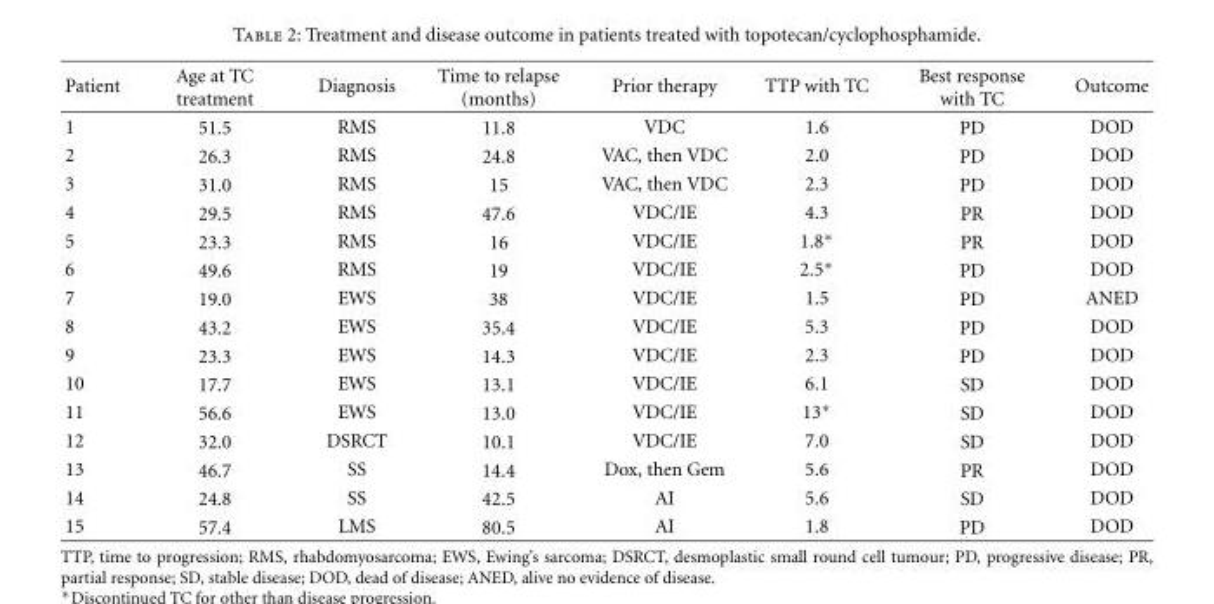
<table><thead><tr><td>Patient</td><td>Age at TC treatment</td><td>Diagnosis</td><td>Time to relapse (months)</td><td>Prior therapy</td><td>TTP with TC</td><td>Best response with TC</td><td>Outcome</td></tr></thead><tbody><tr><td>1</td><td>51.5</td><td>RMS</td><td>11.8</td><td>VDC</td><td>1.6</td><td>PD</td><td>DOD</td></tr><tr><td>2</td><td>26.3</td><td>RMS</td><td>24.8</td><td>VAC, then VDC</td><td>2.0</td><td>PD</td><td>DOD</td></tr><tr><td>3</td><td>31.0</td><td>RMS</td><td>15</td><td>VAC, then VDC</td><td>2.3</td><td>PD</td><td>DOD</td></tr><tr><td>4</td><td>29.5</td><td>RMS</td><td>47.6</td><td>VDC/IE</td><td>4.3</td><td>PR</td><td>DOD</td></tr><tr><td>5</td><td>23.3</td><td>RMS</td><td>16</td><td>VDC/IE</td><td>1.8∗</td><td>PR</td><td>DOD</td></tr><tr><td>6</td><td>49.6</td><td>RMS</td><td>19</td><td>VDC/IE</td><td>2.5∗</td><td>PD</td><td>DOD</td></tr><tr><td>7</td><td>19.0</td><td>EWS</td><td>38</td><td>VDC/IE</td><td>1.5</td><td>PD</td><td>ANED</td></tr><tr><td>8</td><td>43.2</td><td>EWS</td><td>35.4</td><td>VDC/IE</td><td>5.3</td><td>PD</td><td>DOD</td></tr><tr><td>9</td><td>23.3</td><td>EWS</td><td>14.3</td><td>VDC/IE</td><td>2.3</td><td>PD</td><td>DOD</td></tr><tr><td>10</td><td>17.7</td><td>EWS</td><td>13.1</td><td>VDC/IE</td><td>6.1</td><td>SD</td><td>DOD</td></tr><tr><td>11</td><td>56.6</td><td>EWS</td><td>13.0</td><td>VDC/IE</td><td>13∗</td><td>SD</td><td>DOD</td></tr><tr><td>12</td><td>32.0</td><td>DSRCT</td><td>10.1</td><td>VDC/IE</td><td>7.0</td><td>SD</td><td>DOD</td></tr><tr><td>13</td><td>46.7</td><td>SS</td><td>14.4</td><td>Dox, then Gem</td><td>5.6</td><td>PR</td><td>DOD</td></tr><tr><td>14</td><td>24.8</td><td>SS</td><td>42.5</td><td>AI</td><td>5.6</td><td>SD</td><td>DOD</td></tr><tr><td>15</td><td>57.4</td><td>LMS</td><td>80.5</td><td>AI</td><td>1.8</td><td>PD</td><td>DOD</td></tr></tbody></table>